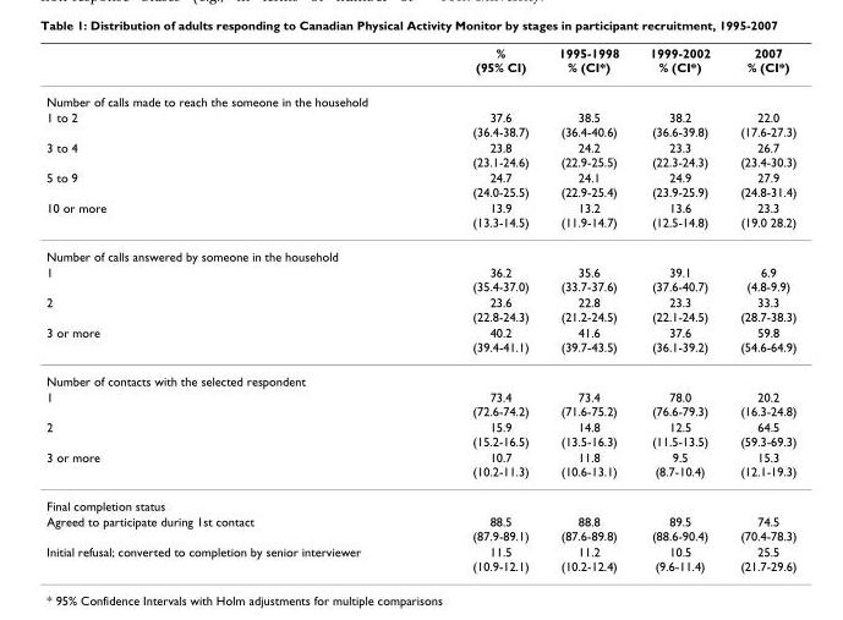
<table><thead><tr><td></td><td>% (95% CI)</td><td>1995-1998 % (CI*)</td><td>1999-2002 % (CI*)</td><td>2007 % (CI*)</td></tr></thead><tbody><tr><td colspan="5">Number of calls made to reach the someone in the household</td></tr><tr><td>1 to 2</td><td>37.6 (36.4-38.7)</td><td>38.5 (36.4-40.6)</td><td>38.2 (36.6-39.8)</td><td>22.0 (17.6-27.3)</td></tr><tr><td>3 to 4</td><td>23.8 (23.1-24.6)</td><td>24.2 (22.9-25.5)</td><td>23.3 (22.3-24.3)</td><td>26.7 (23.4-30.3)</td></tr><tr><td>5 to 9</td><td>24.7 (24.0-25.5)</td><td>24.1 (22.9-25.4)</td><td>24.9 (23.9-25.9)</td><td>27.9 (24.8-31.4)</td></tr><tr><td>10 or more</td><td>13.9 (13.3-14.5)</td><td>13.2 (11.9-14.7)</td><td>13.6 (12.5-14.8)</td><td>23.3 (19.0 28.2)</td></tr><tr><td colspan="5">Number of calls answered by someone in the household</td></tr><tr><td>1</td><td>36.2 (35.4-37.0)</td><td>35.6 (33.7-37.6)</td><td>39.1 (37.6-40.7)</td><td>6.9 (4.8-9.9)</td></tr><tr><td>2</td><td>23.6 (22.8-24.3)</td><td>22.8 (21.2-24.5)</td><td>23.3 (22.1-24.5)</td><td>33.3 (28.7-38.3)</td></tr><tr><td>3 or more</td><td>40.2 (39.4-41.1)</td><td>41.6 (39.7-43.5)</td><td>37.6 (36.1-39.2)</td><td>59.8 (54.6-64.9)</td></tr><tr><td colspan="5">Number of contacts with the selected respondent</td></tr><tr><td>1</td><td>73.4 (72.6-74.2)</td><td>73.4 (71.6-75.2)</td><td>78.0 (76.6-79.3)</td><td>20.2 (16.3-24.8)</td></tr><tr><td>2</td><td>15.9 (15.2-16.5)</td><td>14.8 (13.5-16.3)</td><td>12.5 (11.5-13.5)</td><td>64.5 (59.3-69.3)</td></tr><tr><td>3 or more</td><td>10.7 (10.2-11.3)</td><td>11.8 (10.6-13.1)</td><td>9.5 (8.7-10.4)</td><td>15.3 (12.1-19.3)</td></tr><tr><td colspan="5">Final completion status</td></tr><tr><td>Agreed to participate during 1st contact</td><td>88.5 (87.9-89.1)</td><td>88.8 (87.6-89.8)</td><td>89.5 (88.6-90.4)</td><td>74.5 (70.4-78.3)</td></tr><tr><td>Initial refusal; converted to completion by senior interviewer</td><td>11.5 (10.9-12.1)</td><td>11.2 (10.2-12.4)</td><td>10.5 (9.6-11.4)</td><td>25.5 (21.7-29.6)</td></tr></tbody></table>